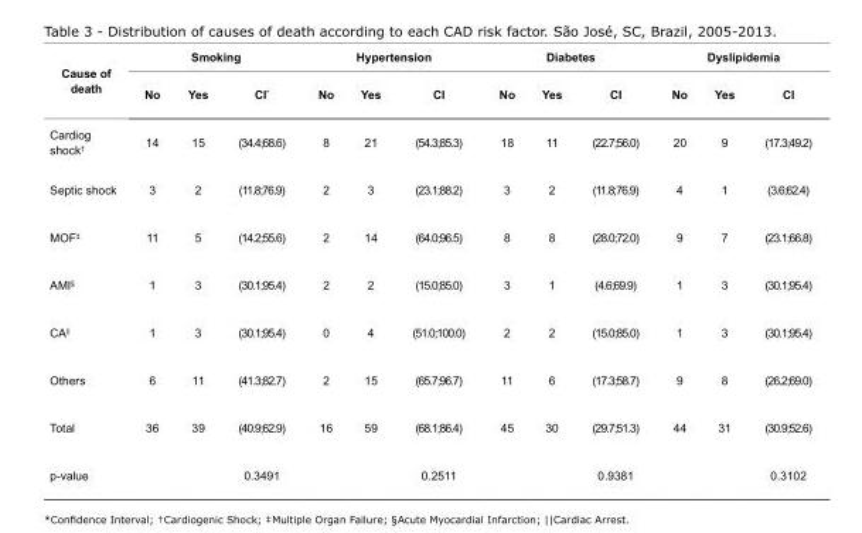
<table><tbody><tr><td rowspan="2">Cause of death</td><td colspan="3">Smoking</td><td colspan="3">Hypertension</td><td colspan="3">Diabetes</td><td colspan="3">Dyslipidemia</td></tr><tr><td>No</td><td>Yes</td><td>CI*</td><td>No</td><td>Yes</td><td>CI</td><td>No</td><td>Yes</td><td>CI</td><td>No</td><td>Yes</td><td>CI</td></tr><tr><td>Cardiog shock<sup>†</sup></td><td>14</td><td>15</td><td>(34.4;68.6)</td><td>8</td><td>21</td><td>(54.3;85.3)</td><td>18</td><td>11</td><td>(22.7;56.0)</td><td>20</td><td>9</td><td>(17.3;49.2)</td></tr><tr><td>Septic shock</td><td>3</td><td>2</td><td>(11.8;76.9)</td><td>2</td><td>3</td><td>(23.1;88.2)</td><td>3</td><td>2</td><td>(11.8;76.9)</td><td>4</td><td>1</td><td>(3.6;62.4)</td></tr><tr><td>MOF<sup>‡</sup></td><td>11</td><td>5</td><td>(14.2;55.6)</td><td>2</td><td>14</td><td>(64.0;96.5)</td><td>8</td><td>8</td><td>(28.0;72.0)</td><td>9</td><td>7</td><td>(23.1;66.8)</td></tr><tr><td>AMI<sup>§</sup></td><td>1</td><td>3</td><td>(30.1;95.4)</td><td>2</td><td>2</td><td>(15.0;85.0)</td><td>3</td><td>1</td><td>(4.6;69.9)</td><td>1</td><td>3</td><td>(30.1;95.4)</td></tr><tr><td>CA<sup>||</sup></td><td>1</td><td>3</td><td>(30.1;95.4)</td><td>0</td><td>4</td><td>(51.0;100.0)</td><td>2</td><td>2</td><td>(15.0;85.0)</td><td>1</td><td>3</td><td>(30.1;95.4)</td></tr><tr><td>Others</td><td>6</td><td>11</td><td>(41.3;82.7)</td><td>2</td><td>15</td><td>(65.7;96.7)</td><td>11</td><td>6</td><td>(17.3;58.7)</td><td>9</td><td>8</td><td>(26.2;69.0)</td></tr><tr><td>Total</td><td>36</td><td>39</td><td>(40.9;62.9)</td><td>16</td><td>59</td><td>(68.1;86.4)</td><td>45</td><td>30</td><td>(29.7;51.3)</td><td>44</td><td>31</td><td>(30.9;52.6)</td></tr><tr><td>p-value</td><td></td><td></td><td>0.3491</td><td></td><td></td><td>0.2511</td><td></td><td></td><td>0.9381</td><td></td><td></td><td>0.3102</td></tr></tbody></table>